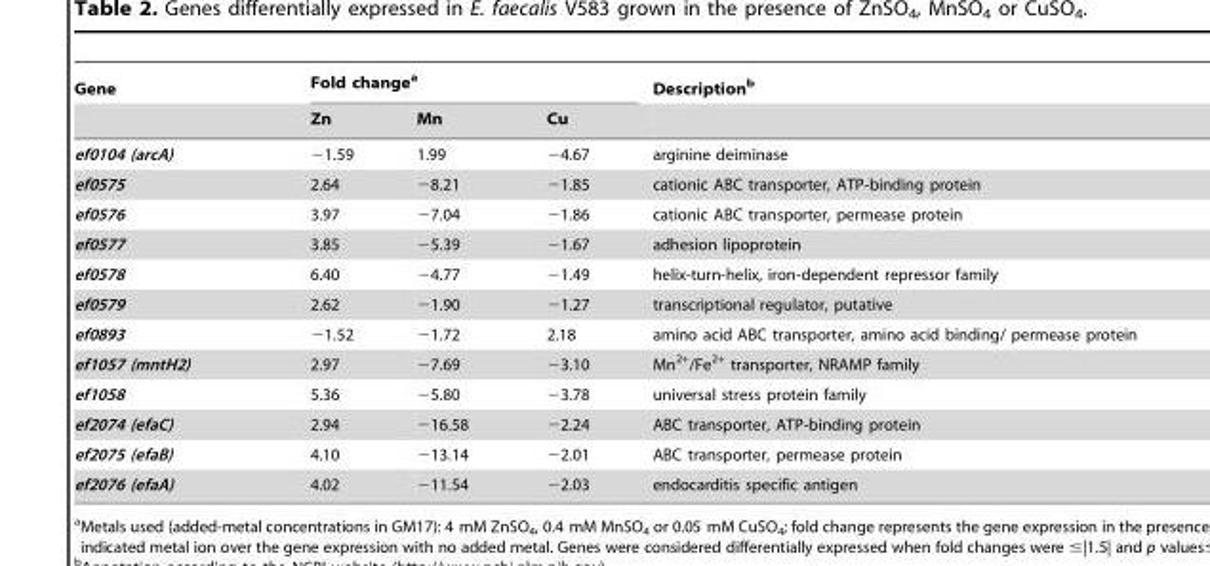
<table><thead><tr><td rowspan="2">Gene</td><td colspan="3">Fold change<sup>a</sup></td><td rowspan="2">Description<sup>b</sup></td></tr><tr><td>Zn</td><td>Mn</td><td>Cu</td></tr></thead><tbody><tr><td>ef0104 (arcA)</td><td>−1.59</td><td>1.99</td><td>−4.67</td><td>arginine deiminase</td></tr><tr><td>ef0575</td><td>2.64</td><td>−8.21</td><td>−1.85</td><td>cationic ABC transporter, ATP-binding protein</td></tr><tr><td>ef0576</td><td>3.97</td><td>−7.04</td><td>−1.86</td><td>cationic ABC transporter, permease protein</td></tr><tr><td>ef0577</td><td>3.85</td><td>−5.39</td><td>−1.67</td><td>adhesion lipoprotein</td></tr><tr><td>ef0578</td><td>6.40</td><td>−4.77</td><td>−1.49</td><td>helix-turn-helix, iron-dependent repressor family</td></tr><tr><td>ef0579</td><td>2.62</td><td>−1.90</td><td>−1.27</td><td>transcriptional regulator, putative</td></tr><tr><td>ef0893</td><td>−1.52</td><td>−1.72</td><td>2.18</td><td>amino acid ABC transporter, amino acid binding/ permease protein</td></tr><tr><td>ef1057 (mntH2)</td><td>2.97</td><td>−7.69</td><td>−3.10</td><td>Mn<sup>2+</sup>/Fe<sup>2+</sup> transporter, NRAMP family</td></tr><tr><td>ef1058</td><td>5.36</td><td>−5.80</td><td>−3.78</td><td>universal stress protein family</td></tr><tr><td>ef2074 (efaC)</td><td>2.94</td><td>−16.58</td><td>−2.24</td><td>ABC transporter, ATP-binding protein</td></tr><tr><td>ef2075 (efaB)</td><td>4.10</td><td>−13.14</td><td>−2.01</td><td>ABC transporter, permease protein</td></tr><tr><td>ef2076 (efaA)</td><td>4.02</td><td>−11.54</td><td>−2.03</td><td>endocarditis specific antigen</td></tr></tbody></table>